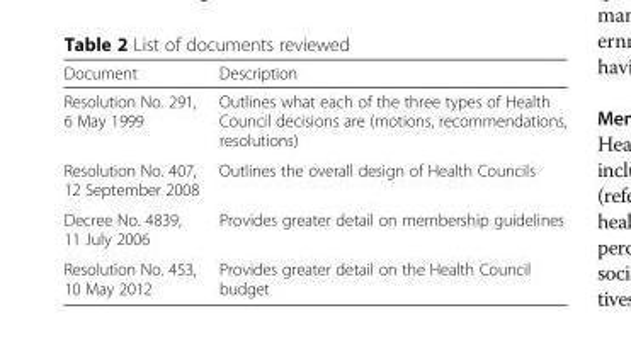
<table><thead><tr><td>Document</td><td>Description</td></tr></thead><tbody><tr><td>Resolution No. 291, 6 May 1999</td><td>Outlines what each of the three types of Health Council decisions are (motions, recommendations, resolutions)</td></tr><tr><td>Resolution No. 407, 12 September 2008</td><td>Outlines the overall design of Health Councils</td></tr><tr><td>Decree No. 4839, 11 July 2006</td><td>Provides greater detail on membership guidelines</td></tr><tr><td>Resolution No. 453, 10 May 2012</td><td>Provides greater detail on the Health Council budget</td></tr></tbody></table>